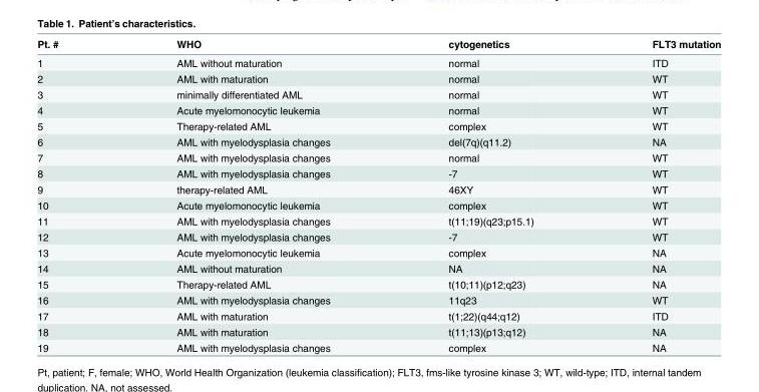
<table><thead><tr><td>Pt. #</td><td>WHO</td><td>cytogenetics</td><td>FLT3 mutation</td></tr></thead><tbody><tr><td>1</td><td>AML without maturation</td><td>normal</td><td>ITD</td></tr><tr><td>2</td><td>AML with maturation</td><td>normal</td><td>WT</td></tr><tr><td>3</td><td>minimally differentiated AML</td><td>normal</td><td>WT</td></tr><tr><td>4</td><td>Acute myelomonocytic leukemia</td><td>normal</td><td>WT</td></tr><tr><td>5</td><td>Therapy-related AML</td><td>complex</td><td>WT</td></tr><tr><td>6</td><td>AML with myelodysplasia changes</td><td>del(7q)(q11.2)</td><td>NA</td></tr><tr><td>7</td><td>AML with myelodysplasia changes</td><td>normal</td><td>WT</td></tr><tr><td>8</td><td>AML with myelodysplasia changes</td><td>-7</td><td>WT</td></tr><tr><td>9</td><td>therapy-related AML</td><td>46XY</td><td>WT</td></tr><tr><td>10</td><td>Acute myelomonocytic leukemia</td><td>complex</td><td>WT</td></tr><tr><td>11</td><td>AML with myelodysplasia changes</td><td>t(11;19)(q23;p15.1)</td><td>WT</td></tr><tr><td>12</td><td>AML with myelodysplasia changes</td><td>-7</td><td>WT</td></tr><tr><td>13</td><td>Acute myelomonocytic leukemia</td><td>complex</td><td>NA</td></tr><tr><td>14</td><td>AML without maturation</td><td>NA</td><td>NA</td></tr><tr><td>15</td><td>Therapy-related AML</td><td>t(10;11)(p12;q23)</td><td>NA</td></tr><tr><td>16</td><td>AML with myelodysplasia changes</td><td>11q23</td><td>WT</td></tr><tr><td>17</td><td>AML with maturation</td><td>t(1;22)(q44;q12)</td><td>ITD</td></tr><tr><td>18</td><td>AML with maturation</td><td>t(11;13)(p13;q12)</td><td>NA</td></tr><tr><td>19</td><td>AML with myelodysplasia changes</td><td>complex</td><td>NA</td></tr></tbody></table>